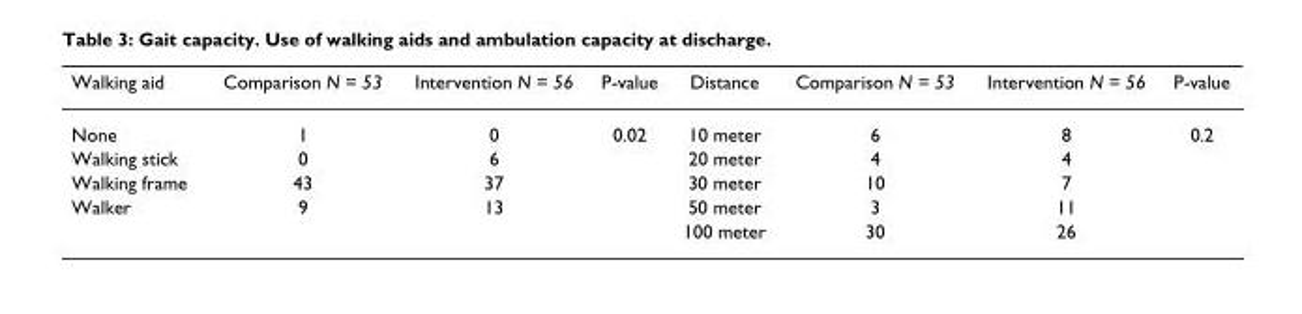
<table><thead><tr><td>Walking aid</td><td>Comparison N = 53</td><td>Intervention N = 56</td><td>P-value</td><td>Distance</td><td>Comparison N = 53</td><td>Intervention N = 56</td><td>P-value</td></tr></thead><tbody><tr><td>None</td><td>1</td><td>0</td><td>0.02</td><td>10 meter</td><td>6</td><td>8</td><td>0.2</td></tr><tr><td>Walking stick</td><td>0</td><td>6</td><td></td><td>20 meter</td><td>4</td><td>4</td><td></td></tr><tr><td>Walking frame</td><td>43</td><td>37</td><td></td><td>30 meter</td><td>10</td><td>7</td><td></td></tr><tr><td rowspan="2">Walker</td><td>9</td><td>13</td><td></td><td>50 meter</td><td>3</td><td>11</td><td></td></tr><tr><td></td><td></td><td></td><td>100 meter</td><td>30</td><td>26</td><td></td></tr></tbody></table>